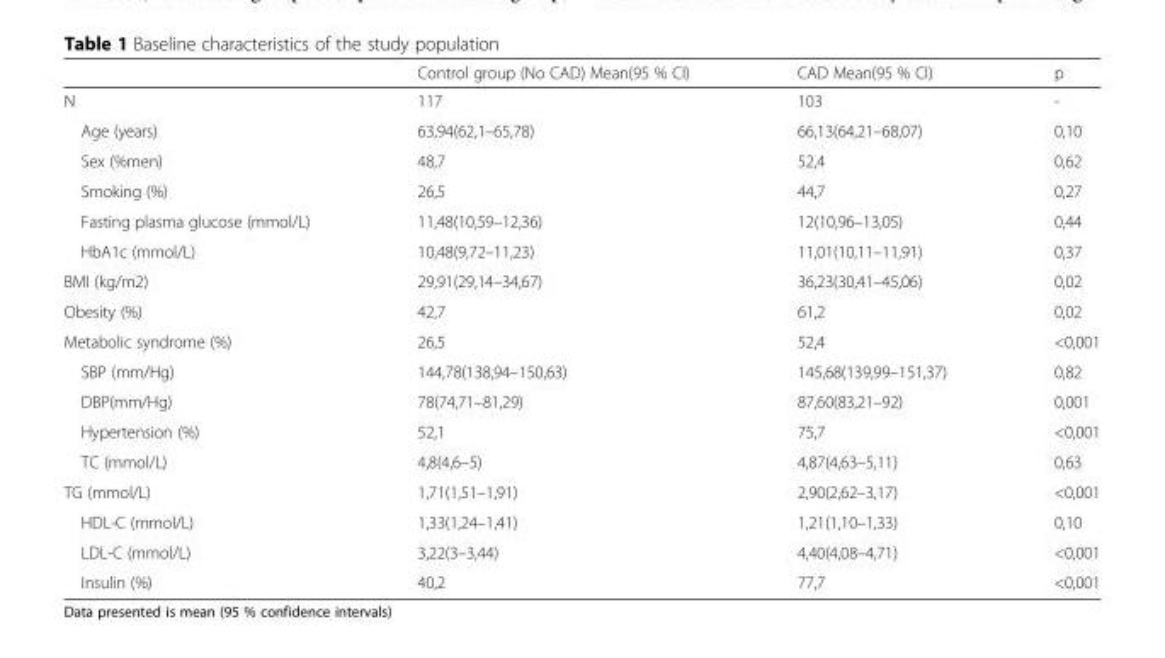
<table><thead><tr><td></td><td>Control group (No CAD) Mean(95 % CI)</td><td>CAD Mean(95 % CI)</td><td>p</td></tr></thead><tbody><tr><td>N</td><td>117</td><td>103</td><td>-</td></tr><tr><td>Age (years)</td><td>63,94(62,1–65,78)</td><td>66,13(64,21–68,07)</td><td>0,10</td></tr><tr><td>Sex (%men)</td><td>48,7</td><td>52,4</td><td>0,62</td></tr><tr><td>Smoking (%)</td><td>26,5</td><td>44,7</td><td>0,27</td></tr><tr><td>Fasting plasma glucose (mmol/L)</td><td>11,48(10,59–12,36)</td><td>12(10,96–13,05)</td><td>0,44</td></tr><tr><td>HbA1c (mmol/L)</td><td>10,48(9,72–11,23)</td><td>11,01(10,11–11,91)</td><td>0,37</td></tr><tr><td>BMI (kg/m2)</td><td>29,91(29,14–34,67)</td><td>36,23(30,41–45,06)</td><td>0,02</td></tr><tr><td>Obesity (%)</td><td>42,7</td><td>61,2</td><td>0,02</td></tr><tr><td>Metabolic syndrome (%)</td><td>26,5</td><td>52,4</td><td>&lt;0,001</td></tr><tr><td>SBP (mm/Hg)</td><td>144,78(138,94–150,63)</td><td>145,68(139,99–151,37)</td><td>0,82</td></tr><tr><td>DBP(mm/Hg)</td><td>78(74,71–81,29)</td><td>87,60(83,21–92)</td><td>0,001</td></tr><tr><td>Hypertension (%)</td><td>52,1</td><td>75,7</td><td>&lt;0,001</td></tr><tr><td>TC (mmol/L)</td><td>4,8(4,6–5)</td><td>4,87(4,63–5,11)</td><td>0,63</td></tr><tr><td>TG (mmol/L)</td><td>1,71(1,51–1,91)</td><td>2,90(2,62–3,17)</td><td>&lt;0,001</td></tr><tr><td>HDL-C (mmol/L)</td><td>1,33(1,24–1,41)</td><td>1,21(1,10–1,33)</td><td>0,10</td></tr><tr><td>LDL-C (mmol/L)</td><td>3,22(3–3,44)</td><td>4,40(4,08–4,71)</td><td>&lt;0,001</td></tr><tr><td>Insulin (%)</td><td>40,2</td><td>77,7</td><td>&lt;0,001</td></tr></tbody></table>